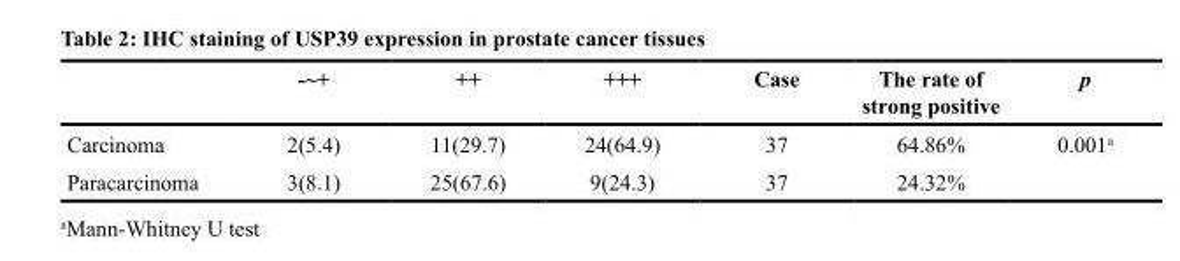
<table><thead><tr><td></td><td>-~+</td><td>++</td><td>+++</td><td>Case</td><td>The rate of strong positive</td><td>p</td></tr></thead><tbody><tr><td>Carcinoma</td><td>2(5.4)</td><td>11(29.7)</td><td>24(64.9)</td><td>37</td><td>64.86%</td><td>0.001<sup>a</sup></td></tr><tr><td>Paracarcinoma</td><td>3(8.1)</td><td>25(67.6)</td><td>9(24.3)</td><td>37</td><td>24.32%</td><td></td></tr></tbody></table>